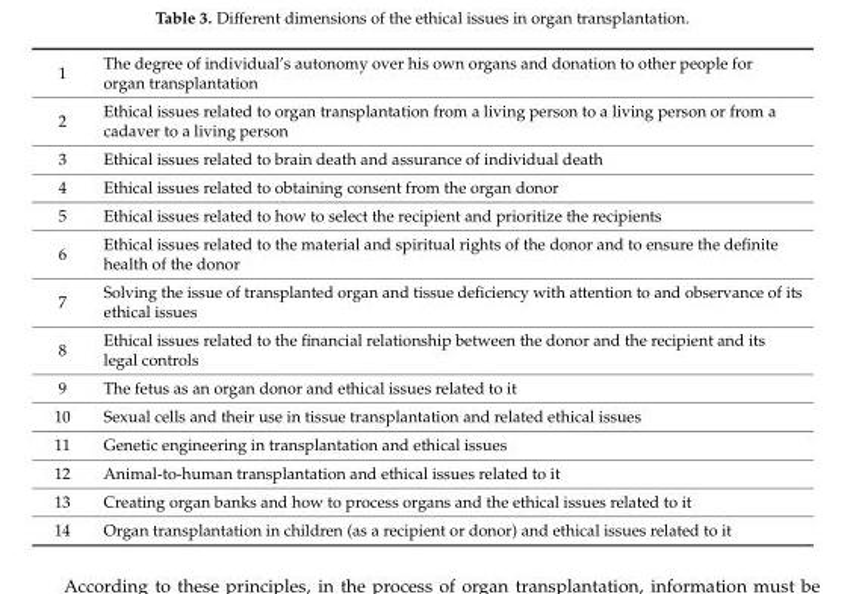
<table><tbody><tr><td>1</td><td>The degree of individual’s autonomy over his own organs and donation to other people for organ transplantation</td></tr><tr><td>2</td><td>Ethical issues related to organ transplantation from a living person to a living person or from a cadaver to a living person</td></tr><tr><td>3</td><td>Ethical issues related to brain death and assurance of individual death</td></tr><tr><td>4</td><td>Ethical issues related to obtaining consent from the organ donor</td></tr><tr><td>5</td><td>Ethical issues related to how to select the recipient and prioritize the recipients</td></tr><tr><td>6</td><td>Ethical issues related to the material and spiritual rights of the donor and to ensure the definite health of the donor</td></tr><tr><td>7</td><td>Solving the issue of transplanted organ and tissue deficiency with attention to and observance of its ethical issues</td></tr><tr><td>8</td><td>Ethical issues related to the financial relationship between the donor and the recipient and its legal controls</td></tr><tr><td>9</td><td>The fetus as an organ donor and ethical issues related to it</td></tr><tr><td>10</td><td>Sexual cells and their use in tissue transplantation and related ethical issues</td></tr><tr><td>11</td><td>Genetic engineering in transplantation and ethical issues</td></tr><tr><td>12</td><td>Animal-to-human transplantation and ethical issues related to it</td></tr><tr><td>13</td><td>Creating organ banks and how to process organs and the ethical issues related to it</td></tr><tr><td>14</td><td>Organ transplantation in children (as a recipient or donor) and ethical issues related to it</td></tr></tbody></table>